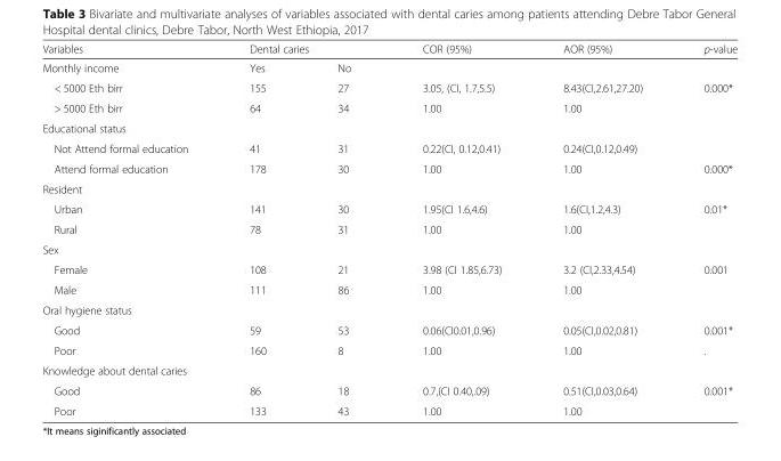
<table><thead><tr><td rowspan="2">Variables Monthly income</td><td colspan="2">Dental caries</td><td rowspan="2">COR (95%)</td><td rowspan="2">AOR (95%)</td><td rowspan="2">p-value</td></tr><tr><td>Yes</td><td>No</td></tr></thead><tbody><tr><td>&lt; 5000 Eth birr</td><td>155</td><td>27</td><td>3.05, (CI, 1.7,5.5)</td><td>8.43(CI,2.61,27.20)</td><td>0.000*</td></tr><tr><td>&gt; 5000 Eth birr</td><td>64</td><td>34</td><td>1.00</td><td>1.00</td><td></td></tr><tr><td colspan="6">Educational status</td></tr><tr><td>Not Attend formal education</td><td>41</td><td>31</td><td>0.22(CI, 0.12,0.41)</td><td>0.24(CI,0.12,0.49)</td><td></td></tr><tr><td>Attend formal education</td><td>178</td><td>30</td><td>1.00</td><td>1.00</td><td>0.000*</td></tr><tr><td colspan="6">Resident</td></tr><tr><td>Urban</td><td>141</td><td>30</td><td>1.95(CI 1.6,4.6)</td><td>1.6(CI,1.2,4.3)</td><td>0.01*</td></tr><tr><td>Rural</td><td>78</td><td>31</td><td>1.00</td><td>1.00</td><td></td></tr><tr><td colspan="6">Sex</td></tr><tr><td>Female</td><td>108</td><td>21</td><td>3.98 (CI 1.85,6.73)</td><td>3.2 (CI,2.33,4.54)</td><td>0.001</td></tr><tr><td>Male</td><td>111</td><td>86</td><td>1.00</td><td>1.00</td><td></td></tr><tr><td colspan="6">Oral hygiene status</td></tr><tr><td>Good</td><td>59</td><td>53</td><td>0.06(CI0.01,0.96)</td><td>0.05(CI,0.02,0.81)</td><td>0.001*</td></tr><tr><td>Poor</td><td>160</td><td>8</td><td>1.00</td><td>1.00</td><td>.</td></tr><tr><td colspan="6">Knowledge about dental caries</td></tr><tr><td>Good</td><td>86</td><td>18</td><td>0.7,(CI 0.40,.09)</td><td>0.51(CI,0.03,0.64)</td><td>0.001*</td></tr><tr><td>Poor</td><td>133</td><td>43</td><td>1.00</td><td>1.00</td><td></td></tr></tbody></table>